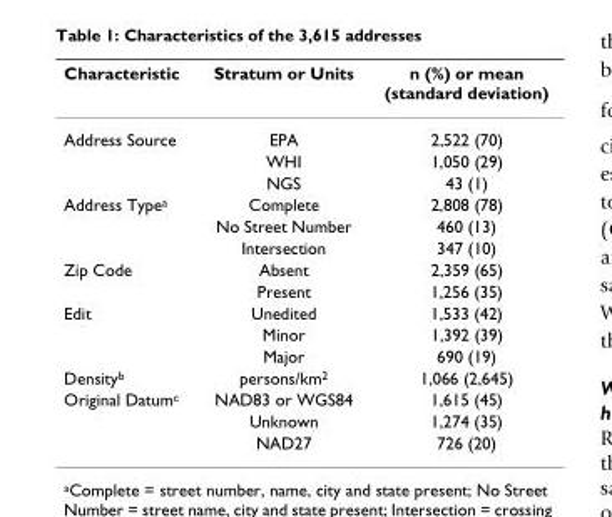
<table><thead><tr><td>Characteristic</td><td>Stratum or Units</td><td>n (%) or mean (standard deviation)</td></tr></thead><tbody><tr><td rowspan="3">Address Source</td><td>EPA</td><td>2,522 (70)</td></tr><tr><td>WHI</td><td>1,050 (29)</td></tr><tr><td>NGS</td><td>43 (1)</td></tr><tr><td rowspan="3">Address Type<sup>a</sup></td><td>Complete</td><td>2,808 (78)</td></tr><tr><td>No Street Number</td><td>460 (13)</td></tr><tr><td>Intersection</td><td>347 (10)</td></tr><tr><td rowspan="2">Zip Code</td><td>Absent</td><td>2,359 (65)</td></tr><tr><td>Present</td><td>1,256 (35)</td></tr><tr><td rowspan="3">Edit</td><td>Unedited</td><td>1,533 (42)</td></tr><tr><td>Minor</td><td>1,392 (39)</td></tr><tr><td>Major</td><td>690 (19)</td></tr><tr><td>Density<sup>b</sup></td><td>persons/km<sup>2</sup></td><td>1,066 (2,645)</td></tr><tr><td rowspan="3">Original Datum<sup>c</sup></td><td>NAD83 or WGS84</td><td>1,615 (45)</td></tr><tr><td>Unknown</td><td>1,274 (35)</td></tr><tr><td>NAD27</td><td>726 (20)</td></tr></tbody></table>